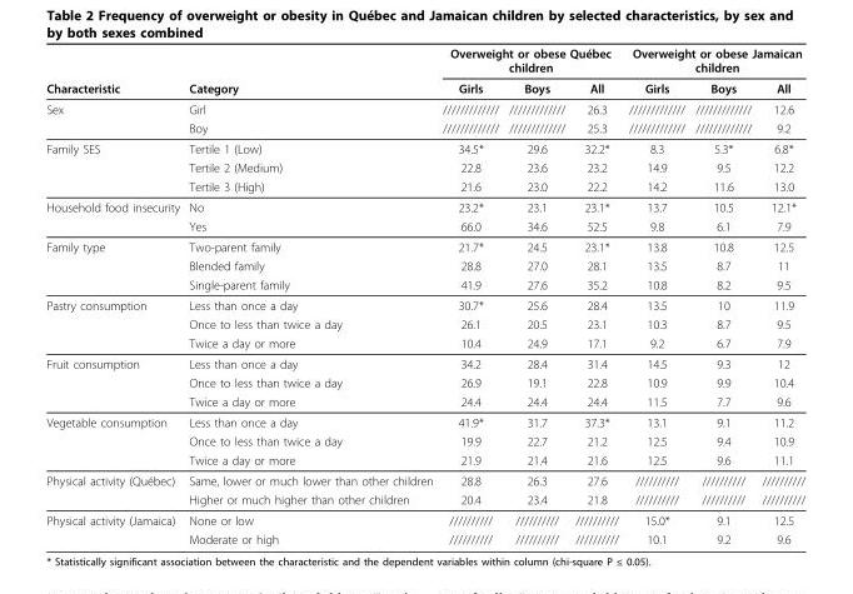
<table><thead><tr><td rowspan="2">Characteristic</td><td rowspan="2">Category</td><td colspan="3">Overweight or obese Québec children</td><td colspan="3">Overweight or obese Jamaican children</td></tr><tr><td>Girls</td><td>Boys</td><td>All</td><td>Girls</td><td>Boys</td><td>All</td></tr></thead><tbody><tr><td rowspan="2">Sex</td><td>Girl</td><td>/////////////</td><td>/////////////</td><td>26.3</td><td>/////////////</td><td>/////////////</td><td>12.6</td></tr><tr><td>Boy</td><td>/////////////</td><td>/////////////</td><td>25.3</td><td>/////////////</td><td>/////////////</td><td>9.2</td></tr><tr><td rowspan="3">Family SES</td><td>Tertile 1 (Low)</td><td>34.5*</td><td>29.6</td><td>32.2*</td><td>8.3</td><td>5.3*</td><td>6.8*</td></tr><tr><td>Tertile 2 (Medium)</td><td>22.8</td><td>23.6</td><td>23.2</td><td>14.9</td><td>9.5</td><td>12.2</td></tr><tr><td>Tertile 3 (High)</td><td>21.6</td><td>23.0</td><td>22.2</td><td>14.2</td><td>11.6</td><td>13.0</td></tr><tr><td rowspan="2">Household food insecurity</td><td>No</td><td>23.2*</td><td>23.1</td><td>23.1*</td><td>13.7</td><td>10.5</td><td>12.1*</td></tr><tr><td>Yes</td><td>66.0</td><td>34.6</td><td>52.5</td><td>9.8</td><td>6.1</td><td>7.9</td></tr><tr><td rowspan="3">Family type</td><td>Two-parent family</td><td>21.7*</td><td>24.5</td><td>23.1*</td><td>13.8</td><td>10.8</td><td>12.5</td></tr><tr><td>Blended family</td><td>28.8</td><td>27.0</td><td>28.1</td><td>13.5</td><td>8.7</td><td>11</td></tr><tr><td>Single-parent family</td><td>41.9</td><td>27.6</td><td>35.2</td><td>10.8</td><td>8.2</td><td>9.5</td></tr><tr><td rowspan="3">Pastry consumption</td><td>Less than once a day</td><td>30.7*</td><td>25.6</td><td>28.4</td><td>13.5</td><td>10</td><td>11.9</td></tr><tr><td>Once to less than twice a day</td><td>26.1</td><td>20.5</td><td>23.1</td><td>10.3</td><td>8.7</td><td>9.5</td></tr><tr><td>Twice a day or more</td><td>10.4</td><td>24.9</td><td>17.1</td><td>9.2</td><td>6.7</td><td>7.9</td></tr><tr><td rowspan="3">Fruit consumption</td><td>Less than once a day</td><td>34.2</td><td>28.4</td><td>31.4</td><td>14.5</td><td>9.3</td><td>12</td></tr><tr><td>Once to less than twice a day</td><td>26.9</td><td>19.1</td><td>22.8</td><td>10.9</td><td>9.9</td><td>10.4</td></tr><tr><td>Twice a day or more</td><td>24.4</td><td>24.4</td><td>24.4</td><td>11.5</td><td>7.7</td><td>9.6</td></tr><tr><td rowspan="3">Vegetable consumption</td><td>Less than once a day</td><td>41.9*</td><td>31.7</td><td>37.3*</td><td>13.1</td><td>9.1</td><td>11.2</td></tr><tr><td>Once to less than twice a day</td><td>19.9</td><td>22.7</td><td>21.2</td><td>12.5</td><td>9.4</td><td>10.9</td></tr><tr><td>Twice a day or more</td><td>21.9</td><td>21.4</td><td>21.6</td><td>12.5</td><td>9.6</td><td>11.1</td></tr><tr><td rowspan="2">Physical activity (Québec)</td><td>Same, lower or much lower than other children</td><td>28.8</td><td>26.3</td><td>27.6</td><td>//////////</td><td>//////////</td><td>//////////</td></tr><tr><td>Higher or much higher than other children</td><td>20.4</td><td>23.4</td><td>21.8</td><td>//////////</td><td>//////////</td><td>//////////</td></tr><tr><td rowspan="2">Physical activity (Jamaica)</td><td>None or low</td><td>//////////</td><td>//////////</td><td>//////////</td><td>15.0*</td><td>9.1</td><td>12.5</td></tr><tr><td>Moderate or high</td><td>//////////</td><td>//////////</td><td>//////////</td><td>10.1</td><td>9.2</td><td>9.6</td></tr></tbody></table>